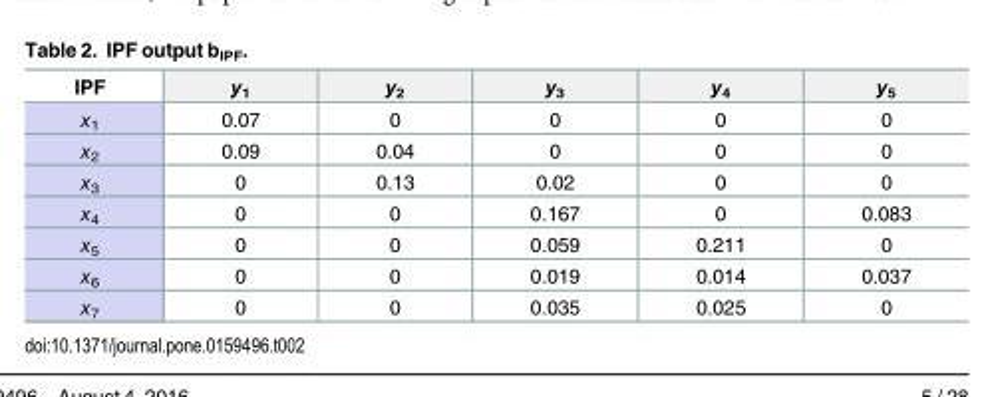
<table><thead><tr><td>IPF</td><td>y<sub>1</sub></td><td>y<sub>2</sub></td><td>y<sub>3</sub></td><td>y<sub>4</sub></td><td>y<sub>5</sub></td></tr></thead><tbody><tr><td>x<sub>1</sub></td><td>0.07</td><td>0</td><td>0</td><td>0</td><td>0</td></tr><tr><td>x<sub>2</sub></td><td>0.09</td><td>0.04</td><td>0</td><td>0</td><td>0</td></tr><tr><td>x<sub>3</sub></td><td>0</td><td>0.13</td><td>0.02</td><td>0</td><td>0</td></tr><tr><td>x<sub>4</sub></td><td>0</td><td>0</td><td>0.167</td><td>0</td><td>0.083</td></tr><tr><td>x<sub>5</sub></td><td>0</td><td>0</td><td>0.059</td><td>0.211</td><td>0</td></tr><tr><td>x<sub>6</sub></td><td>0</td><td>0</td><td>0.019</td><td>0.014</td><td>0.037</td></tr><tr><td>x<sub>7</sub></td><td>0</td><td>0</td><td>0.035</td><td>0.025</td><td>0</td></tr></tbody></table>